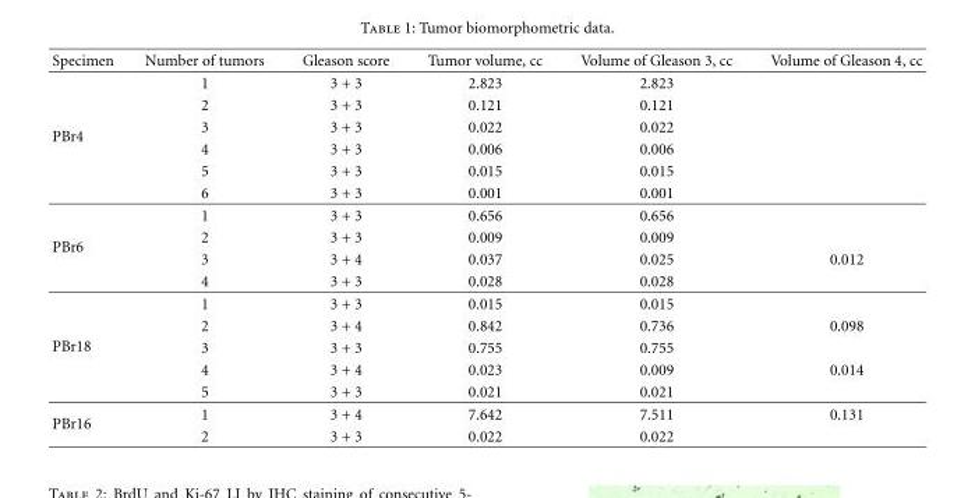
<table><thead><tr><td>Specimen</td><td>Number of tumors</td><td>Gleason score</td><td>Tumor volume, cc</td><td>Volume of Gleason 3, cc</td><td>Volume of Gleason 4, cc</td></tr></thead><tbody><tr><td rowspan="6">PBr4</td><td>1</td><td>3 + 3</td><td>2.823</td><td>2.823</td><td></td></tr><tr><td>2</td><td>3 + 3</td><td>0.121</td><td>0.121</td><td></td></tr><tr><td>3</td><td>3 + 3</td><td>0.022</td><td>0.022</td><td></td></tr><tr><td>4</td><td>3 + 3</td><td>0.006</td><td>0.006</td><td></td></tr><tr><td>5</td><td>3 + 3</td><td>0.015</td><td>0.015</td><td></td></tr><tr><td>6</td><td>3 + 3</td><td>0.001</td><td>0.001</td><td></td></tr><tr><td rowspan="4">PBr6</td><td>1</td><td>3 + 3</td><td>0.656</td><td>0.656</td><td></td></tr><tr><td>2</td><td>3 + 3</td><td>0.009</td><td>0.009</td><td></td></tr><tr><td>3</td><td>3 + 4</td><td>0.037</td><td>0.025</td><td>0.012</td></tr><tr><td>4</td><td>3 + 3</td><td>0.028</td><td>0.028</td><td></td></tr><tr><td rowspan="5">PBr18</td><td>1</td><td>3 + 3</td><td>0.015</td><td>0.015</td><td></td></tr><tr><td>2</td><td>3 + 4</td><td>0.842</td><td>0.736</td><td>0.098</td></tr><tr><td>3</td><td>3 + 3</td><td>0.755</td><td>0.755</td><td></td></tr><tr><td>4</td><td>3 + 4</td><td>0.023</td><td>0.009</td><td>0.014</td></tr><tr><td>5</td><td>3 + 3</td><td>0.021</td><td>0.021</td><td></td></tr><tr><td rowspan="2">PBr16</td><td>1</td><td>3 + 4</td><td>7.642</td><td>7.511</td><td>0.131</td></tr><tr><td>2</td><td>3 + 3</td><td>0.022</td><td>0.022</td><td></td></tr></tbody></table>